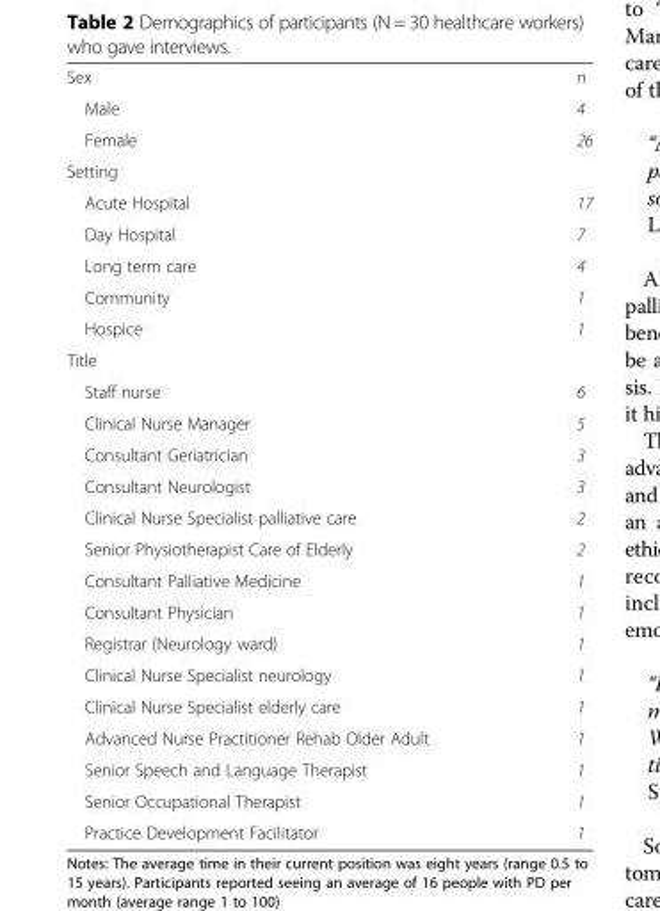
<table><tbody><tr><td>Sex</td><td>n</td></tr><tr><td>Male</td><td>4</td></tr><tr><td>Female</td><td>26</td></tr><tr><td colspan="2">Setting</td></tr><tr><td>Acute Hospital</td><td>17</td></tr><tr><td>Day Hospital</td><td>7</td></tr><tr><td>Long term care</td><td>4</td></tr><tr><td>Community</td><td>1</td></tr><tr><td>Hospice</td><td>1</td></tr><tr><td colspan="2">Title</td></tr><tr><td>Staff nurse</td><td>6</td></tr><tr><td>Clinical Nurse Manager</td><td>5</td></tr><tr><td>Consultant Geriatrician</td><td>3</td></tr><tr><td>Consultant Neurologist</td><td>3</td></tr><tr><td>Clinical Nurse Specialist palliative care</td><td>2</td></tr><tr><td>Senior Physiotherapist Care of Elderly</td><td>2</td></tr><tr><td>Consultant Palliative Medicine</td><td>1</td></tr><tr><td>Consultant Physician</td><td>1</td></tr><tr><td>Registrar (Neurology ward)</td><td>1</td></tr><tr><td>Clinical Nurse Specialist neurology</td><td>1</td></tr><tr><td>Clinical Nurse Specialist elderly care</td><td>1</td></tr><tr><td>Advanced Nurse Practitioner Rehab Older Adult</td><td>1</td></tr><tr><td>Senior Speech and Language Therapist</td><td>1</td></tr><tr><td>Senior Occupational Therapist</td><td>1</td></tr><tr><td>Practice Development Facilitator</td><td>1</td></tr></tbody></table>